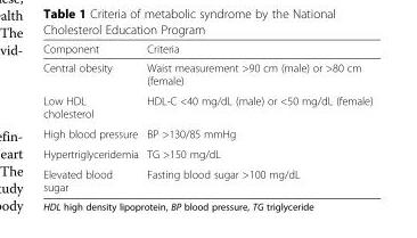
<table><thead><tr><td>Component</td><td>Criteria</td></tr></thead><tbody><tr><td>Central obesity</td><td>Waist measurement &gt;90 cm (male) or &gt;80 cm (female)</td></tr><tr><td>Low HDL cholesterol</td><td>HDL-C &lt;40 mg/dL (male) or &lt;50 mg/dL (female)</td></tr><tr><td>High blood pressure</td><td>BP &gt;130/85 mmHg</td></tr><tr><td>Hypertriglyceridemia</td><td>TG &gt;150 mg/dL</td></tr><tr><td>Elevated blood sugar</td><td>Fasting blood sugar &gt;100 mg/dL</td></tr></tbody></table>